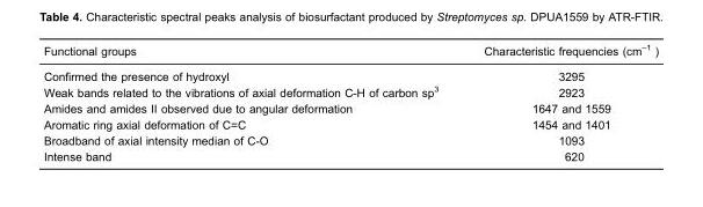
<table><thead><tr><td>Functional groups</td><td>Characteristic frequencies (cm<sup>–1</sup> )</td></tr></thead><tbody><tr><td>Confirmed the presence of hydroxyl</td><td>3295</td></tr><tr><td>Weak bands related to the vibrations of axial deformation C-H of carbon sp<sup>3</sup></td><td>2923</td></tr><tr><td>Amides and amides II observed due to angular deformation</td><td>1647 and 1559</td></tr><tr><td>Aromatic ring axial deformation of C=C</td><td>1454 and 1401</td></tr><tr><td>Broadband of axial intensity median of C-O</td><td>1093</td></tr><tr><td>Intense band</td><td>620</td></tr></tbody></table>